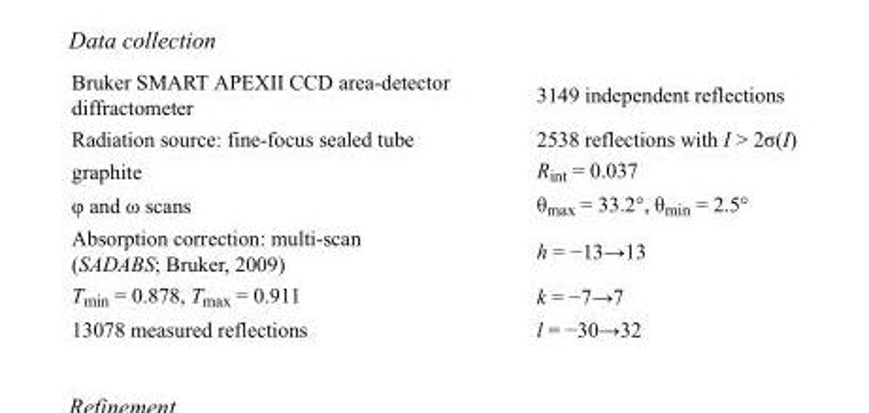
<table><tbody><tr><td>Bruker SMART APEXII CCD area-detector diffractometer</td><td>3149 independent reflections</td></tr><tr><td>Radiation source: fine-focus sealed tube</td><td>2538 reflections with I &gt; 2σ(I)</td></tr><tr><td>graphite</td><td>R<sub>int</sub> = 0.037</td></tr><tr><td>φ and ω scans</td><td>θ<sub>max</sub> = 33.2°, θ<sub>min</sub> = 2.5°</td></tr><tr><td>Absorption correction: multi-scan (SADABS; Bruker, 2009)</td><td>h = −13→13</td></tr><tr><td>T<sub>min</sub> = 0.878, T<sub>max</sub> = 0.911</td><td>k = −7→7</td></tr><tr><td>13078 measured reflections</td><td>l = −30→32</td></tr></tbody></table>